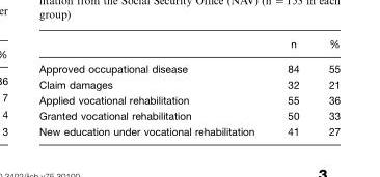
<table><thead><tr><td></td><td>n</td><td>%</td></tr></thead><tbody><tr><td>Approved occupational disease</td><td>84</td><td>55</td></tr><tr><td>Claim damages</td><td>32</td><td>21</td></tr><tr><td>Applied vocational rehabilitation</td><td>55</td><td>36</td></tr><tr><td>Granted vocational rehabilitation</td><td>50</td><td>33</td></tr><tr><td>New education under vocational rehabilitation</td><td>41</td><td>27</td></tr></tbody></table>